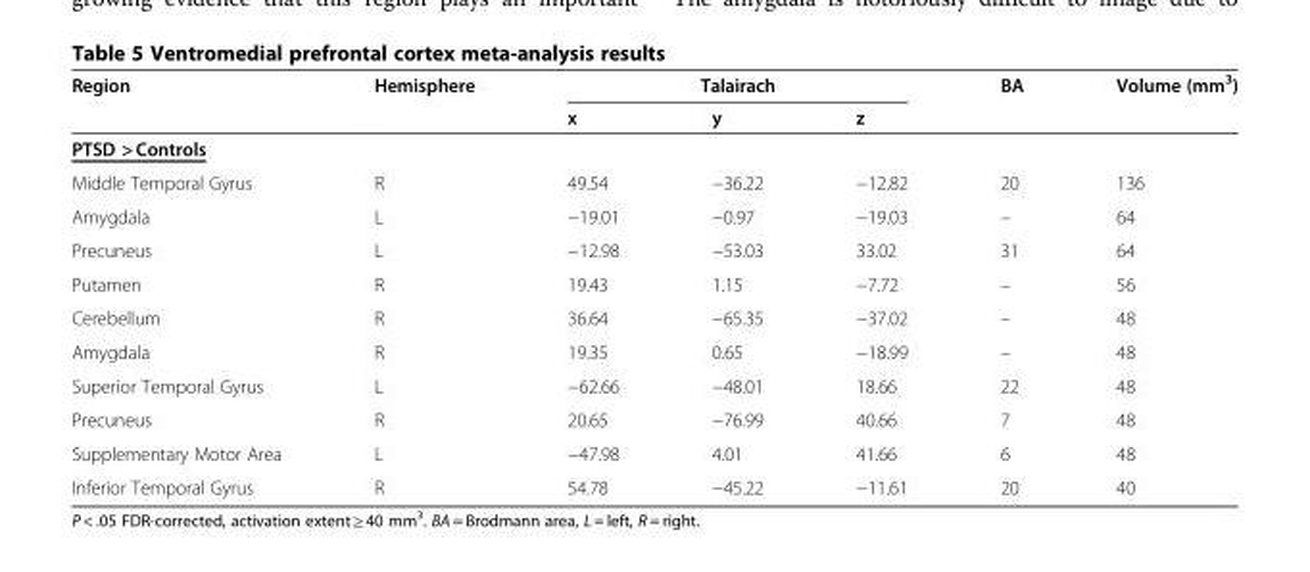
<table><thead><tr><td rowspan="2">Region</td><td rowspan="2">Hemisphere</td><td colspan="3">Talairach</td><td rowspan="2">BA</td><td rowspan="2">Volume (mm<sup>3</sup>)</td></tr><tr><td>x</td><td>y</td><td>z</td></tr></thead><tbody><tr><td colspan="7">PTSD &gt; Controls</td></tr><tr><td>Middle Temporal Gyrus</td><td>R</td><td>49.54</td><td>−36.22</td><td>−12.82</td><td>20</td><td>136</td></tr><tr><td>Amygdala</td><td>L</td><td>−19.01</td><td>−0.97</td><td>−19.03</td><td>–</td><td>64</td></tr><tr><td>Precuneus</td><td>L</td><td>−12.98</td><td>−53.03</td><td>33.02</td><td>31</td><td>64</td></tr><tr><td>Putamen</td><td>R</td><td>19.43</td><td>1.15</td><td>−7.72</td><td>–</td><td>56</td></tr><tr><td>Cerebellum</td><td>R</td><td>36.64</td><td>−65.35</td><td>−37.02</td><td>–</td><td>48</td></tr><tr><td>Amygdala</td><td>R</td><td>19.35</td><td>0.65</td><td>−18.99</td><td>–</td><td>48</td></tr><tr><td>Superior Temporal Gyrus</td><td>L</td><td>−62.66</td><td>−48.01</td><td>18.66</td><td>22</td><td>48</td></tr><tr><td>Precuneus</td><td>R</td><td>20.65</td><td>−76.99</td><td>40.66</td><td>7</td><td>48</td></tr><tr><td>Supplementary Motor Area</td><td>L</td><td>−47.98</td><td>4.01</td><td>41.66</td><td>6</td><td>48</td></tr><tr><td>Inferior Temporal Gyrus</td><td>R</td><td>54.78</td><td>−45.22</td><td>−11.61</td><td>20</td><td>40</td></tr></tbody></table>